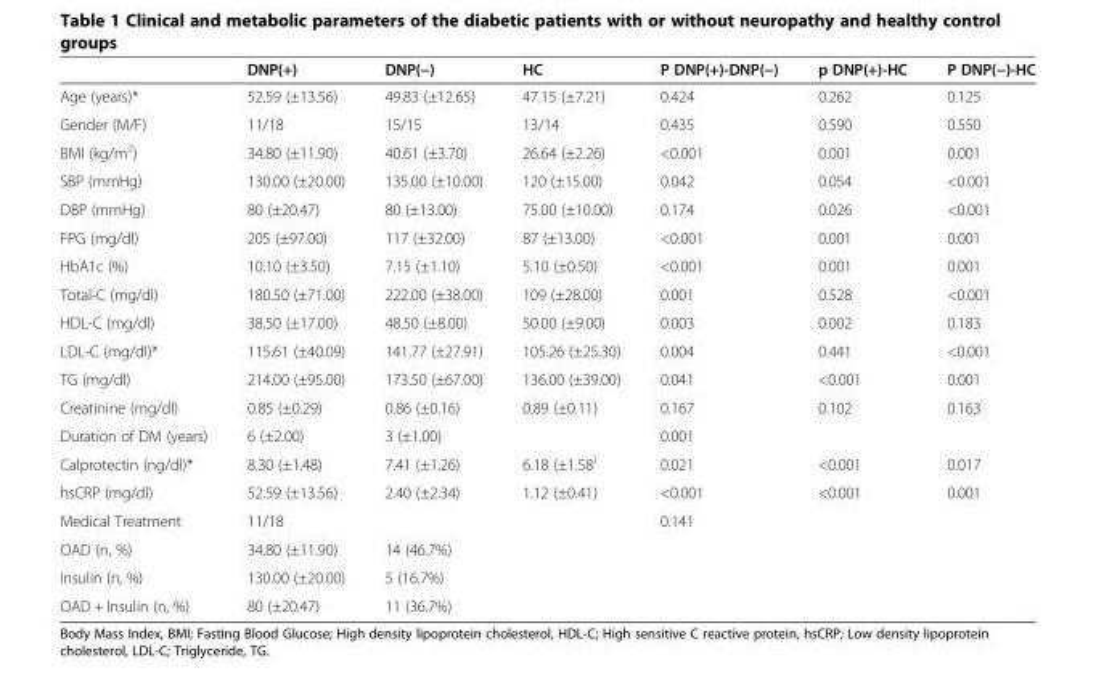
<table><thead><tr><td></td><td>DNP(+)</td><td>DNP(−)</td><td>HC</td><td>P DNP(+)-DNP(−)</td><td>p DNP(+)-HC</td><td>P DNP(−)-HC</td></tr></thead><tbody><tr><td>Age (years)*</td><td>52.59 (±13.56)</td><td>49.83 (±12.65)</td><td>47.15 (±7.21)</td><td>0.424</td><td>0.262</td><td>0.125</td></tr><tr><td>Gender (M/F)</td><td>11/18</td><td>15/15</td><td>13/14</td><td>0.435</td><td>0.590</td><td>0.550</td></tr><tr><td>BMI (kg/m<sup>2</sup>)</td><td>34.80 (±11.90)</td><td>40.61 (±3.70)</td><td>26.64 (±2.26)</td><td>&lt;0.001</td><td>0.001</td><td>0.001</td></tr><tr><td>SBP (mmHg)</td><td>130.00 (±20.00)</td><td>135.00 (±10.00)</td><td>120 (±15.00)</td><td>0.042</td><td>0.054</td><td>&lt;0.001</td></tr><tr><td>DBP (mmHg)</td><td>80 (±20.47)</td><td>80 (±13.00)</td><td>75.00 (±10.00)</td><td>0.174</td><td>0.026</td><td>&lt;0.001</td></tr><tr><td>FPG (mg/dl)</td><td>205 (±97.00)</td><td>117 (±32.00)</td><td>87 (±13.00)</td><td>&lt;0.001</td><td>0.001</td><td>0.001</td></tr><tr><td>HbA1c (%)</td><td>10.10 (±3.50)</td><td>7.15 (±1.10)</td><td>5.10 (±0.50)</td><td>&lt;0.001</td><td>0.001</td><td>0.001</td></tr><tr><td>Total-C (mg/dl)</td><td>180.50 (±71.00)</td><td>222.00 (±38.00)</td><td>109 (±28.00)</td><td>0.001</td><td>0.528</td><td>&lt;0.001</td></tr><tr><td>HDL-C (mg/dl)</td><td>38.50 (±17.00)</td><td>48.50 (±8.00)</td><td>50.00 (±9.00)</td><td>0.003</td><td>0.002</td><td>0.183</td></tr><tr><td>LDL-C (mg/dl)*</td><td>115.61 (±40.09)</td><td>141.77 (±27.91)</td><td>105.26 (±25.30)</td><td>0.004</td><td>0.441</td><td>&lt;0.001</td></tr><tr><td>TG (mg/dl)</td><td>214.00 (±95.00)</td><td>173.50 (±67.00)</td><td>136.00 (±39.00)</td><td>0.041</td><td>&lt;0.001</td><td>0.001</td></tr><tr><td>Creatinine (mg/dl)</td><td>0.85 (±0.29)</td><td>0.86 (±0.16)</td><td>0.89 (±0.11)</td><td>0.167</td><td>0.102</td><td>0.163</td></tr><tr><td>Duration of DM (years)</td><td>6 (±2.00)</td><td>3 (±1.00)</td><td></td><td>0.001</td><td></td><td></td></tr><tr><td>Calprotectin (ng/dl)*</td><td>8.30 (±1.48)</td><td>7.41 (±1.26)</td><td>6.18 (±1.58<sup>)</sup></td><td>0.021</td><td>&lt;0.001</td><td>0.017</td></tr><tr><td>hsCRP (mg/dl)</td><td>52.59 (±13.56)</td><td>2.40 (±2.34)</td><td>1.12 (±0.41)</td><td>&lt;0.001</td><td>&lt;0.001</td><td>0.001</td></tr><tr><td>Medical Treatment</td><td>11/18</td><td></td><td></td><td>0.141</td><td></td><td></td></tr><tr><td>OAD (n, %)</td><td>34.80 (±11.90)</td><td>14 (46.7%)</td><td></td><td></td><td></td><td></td></tr><tr><td>Insulin (n, %)</td><td>130.00 (±20.00)</td><td>5 (16.7%)</td><td></td><td></td><td></td><td></td></tr><tr><td>OAD + Insulin (n, %)</td><td>80 (±20.47)</td><td>11 (36.7%)</td><td></td><td></td><td></td><td></td></tr></tbody></table>